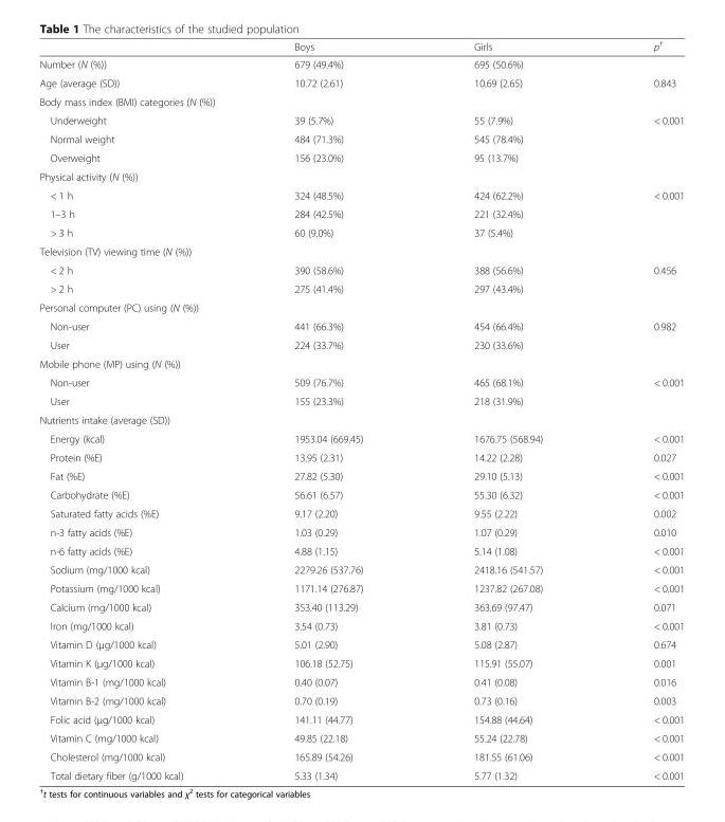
<table><thead><tr><td></td><td>Boys</td><td>Girls</td><td>p<sup>†</sup></td></tr></thead><tbody><tr><td>Number (N (%))</td><td>679 (49.4%)</td><td>695 (50.6%)</td><td></td></tr><tr><td>Age (average (SD))</td><td>10.72 (2.61)</td><td>10.69 (2.65)</td><td>0.843</td></tr><tr><td colspan="4">Body mass index (BMI) categories (N (%))</td></tr><tr><td>Underweight</td><td>39 (5.7%)</td><td>55 (7.9%)</td><td>&lt; 0.001</td></tr><tr><td>Normal weight</td><td>484 (71.3%)</td><td>545 (78.4%)</td><td></td></tr><tr><td>Overweight</td><td>156 (23.0%)</td><td>95 (13.7%)</td><td></td></tr><tr><td colspan="4">Physical activity (N (%))</td></tr><tr><td>&lt; 1 h</td><td>324 (48.5%)</td><td>424 (62.2%)</td><td>&lt; 0.001</td></tr><tr><td>1–3 h</td><td>284 (42.5%)</td><td>221 (32.4%)</td><td></td></tr><tr><td>&gt; 3 h</td><td>60 (9.0%)</td><td>37 (5.4%)</td><td></td></tr><tr><td colspan="4">Television (TV) viewing time (N (%))</td></tr><tr><td>&lt; 2 h</td><td>390 (58.6%)</td><td>388 (56.6%)</td><td>0.456</td></tr><tr><td>&gt; 2 h</td><td>275 (41.4%)</td><td>297 (43.4%)</td><td></td></tr><tr><td colspan="4">Personal computer (PC) using (N (%))</td></tr><tr><td>Non-user</td><td>441 (66.3%)</td><td>454 (66.4%)</td><td>0.982</td></tr><tr><td>User</td><td>224 (33.7%)</td><td>230 (33.6%)</td><td></td></tr><tr><td colspan="4">Mobile phone (MP) using (N (%))</td></tr><tr><td>Non-user</td><td>509 (76.7%)</td><td>465 (68.1%)</td><td>&lt; 0.001</td></tr><tr><td>User</td><td>155 (23.3%)</td><td>218 (31.9%)</td><td></td></tr><tr><td colspan="4">Nutrients intake (average (SD))</td></tr><tr><td>Energy (kcal)</td><td>1953.04 (669.45)</td><td>1676.75 (568.94)</td><td>&lt; 0.001</td></tr><tr><td>Protein (%E)</td><td>13.95 (2.31)</td><td>14.22 (2.28)</td><td>0.027</td></tr><tr><td>Fat (%E)</td><td>27.82 (5.30)</td><td>29.10 (5.13)</td><td>&lt; 0.001</td></tr><tr><td>Carbohydrate (%E)</td><td>56.61 (6.57)</td><td>55.30 (6.32)</td><td>&lt; 0.001</td></tr><tr><td>Saturated fatty acids (%E)</td><td>9.17 (2.20)</td><td>9.55 (2.22)</td><td>0.002</td></tr><tr><td>n-3 fatty acids (%E)</td><td>1.03 (0.29)</td><td>1.07 (0.29)</td><td>0.010</td></tr><tr><td>n-6 fatty acids (%E)</td><td>4.88 (1.15)</td><td>5.14 (1.08)</td><td>&lt; 0.001</td></tr><tr><td>Sodium (mg/1000 kcal)</td><td>2279.26 (537.76)</td><td>2418.16 (541.57)</td><td>&lt; 0.001</td></tr><tr><td>Potassium (mg/1000 kcal)</td><td>1171.14 (276.87)</td><td>1237.82 (267.08)</td><td>&lt; 0.001</td></tr><tr><td>Calcium (mg/1000 kcal)</td><td>353.40 (113.29)</td><td>363.69 (97.47)</td><td>0.071</td></tr><tr><td>Iron (mg/1000 kcal)</td><td>3.54 (0.73)</td><td>3.81 (0.73)</td><td>&lt; 0.001</td></tr><tr><td>Vitamin D (μg/1000 kcal)</td><td>5.01 (2.90)</td><td>5.08 (2.87)</td><td>0.674</td></tr><tr><td>Vitamin K (μg/1000 kcal)</td><td>106.18 (52.75)</td><td>115.91 (55.07)</td><td>0.001</td></tr><tr><td>Vitamin B-1 (mg/1000 kcal)</td><td>0.40 (0.07)</td><td>0.41 (0.08)</td><td>0.016</td></tr><tr><td>Vitamin B-2 (mg/1000 kcal)</td><td>0.70 (0.19)</td><td>0.73 (0.16)</td><td>0.003</td></tr><tr><td>Folic acid (μg/1000 kcal)</td><td>141.11 (44.77)</td><td>154.88 (44.64)</td><td>&lt; 0.001</td></tr><tr><td>Vitamin C (mg/1000 kcal)</td><td>49.85 (22.18)</td><td>55.24 (22.78)</td><td>&lt; 0.001</td></tr><tr><td>Cholesterol (mg/1000 kcal)</td><td>165.89 (54.26)</td><td>181.55 (61.06)</td><td>&lt; 0.001</td></tr><tr><td>Total dietary fiber (g/1000 kcal)</td><td>5.33 (1.34)</td><td>5.77 (1.32)</td><td>&lt; 0.001</td></tr></tbody></table>